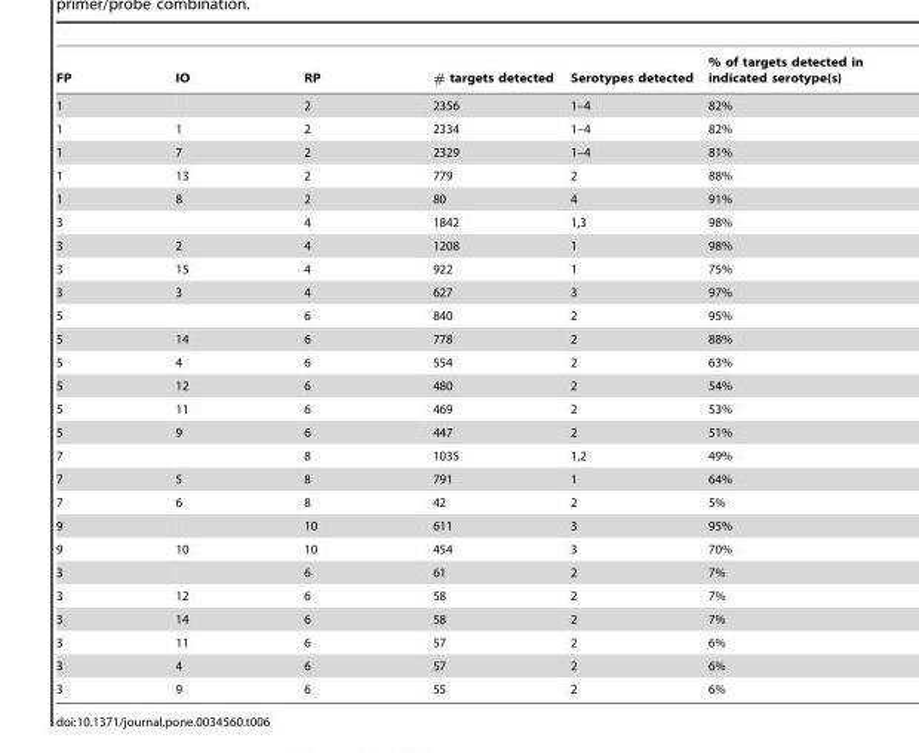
<table><thead><tr><td>FP</td><td>IO</td><td>RP</td><td># targets detected</td><td>Serotypes detected</td><td>% of targets detected in indicated serotype(s)</td></tr></thead><tbody><tr><td>1</td><td></td><td>2</td><td>2356</td><td>1–4</td><td>82%</td></tr><tr><td>1</td><td>1</td><td>2</td><td>2334</td><td>1–4</td><td>82%</td></tr><tr><td>1</td><td>7</td><td>2</td><td>2329</td><td>1–4</td><td>81%</td></tr><tr><td>1</td><td>13</td><td>2</td><td>779</td><td>2</td><td>88%</td></tr><tr><td>1</td><td>8</td><td>2</td><td>80</td><td>4</td><td>91%</td></tr><tr><td>3</td><td></td><td>4</td><td>1842</td><td>1,3</td><td>98%</td></tr><tr><td>3</td><td>2</td><td>4</td><td>1208</td><td>1</td><td>98%</td></tr><tr><td>3</td><td>15</td><td>4</td><td>922</td><td>1</td><td>75%</td></tr><tr><td>3</td><td>3</td><td>4</td><td>627</td><td>3</td><td>97%</td></tr><tr><td>5</td><td></td><td>6</td><td>840</td><td>2</td><td>95%</td></tr><tr><td>5</td><td>14</td><td>6</td><td>778</td><td>2</td><td>88%</td></tr><tr><td>5</td><td>4</td><td>6</td><td>554</td><td>2</td><td>63%</td></tr><tr><td>5</td><td>12</td><td>6</td><td>480</td><td>2</td><td>54%</td></tr><tr><td>5</td><td>11</td><td>6</td><td>469</td><td>2</td><td>53%</td></tr><tr><td>5</td><td>9</td><td>6</td><td>447</td><td>2</td><td>51%</td></tr><tr><td>7</td><td></td><td>8</td><td>1035</td><td>1,2</td><td>49%</td></tr><tr><td>7</td><td>5</td><td>8</td><td>791</td><td>1</td><td>64%</td></tr><tr><td>7</td><td>6</td><td>8</td><td>42</td><td>2</td><td>5%</td></tr><tr><td>9</td><td></td><td>10</td><td>611</td><td>3</td><td>95%</td></tr><tr><td>9</td><td>10</td><td>10</td><td>454</td><td>3</td><td>70%</td></tr><tr><td>3</td><td></td><td>6</td><td>61</td><td>2</td><td>7%</td></tr><tr><td>3</td><td>12</td><td>6</td><td>58</td><td>2</td><td>7%</td></tr><tr><td>3</td><td>14</td><td>6</td><td>58</td><td>2</td><td>7%</td></tr><tr><td>3</td><td>11</td><td>6</td><td>57</td><td>2</td><td>6%</td></tr><tr><td>3</td><td>4</td><td>6</td><td>57</td><td>2</td><td>6%</td></tr><tr><td>3</td><td>9</td><td>6</td><td>55</td><td>2</td><td>6%</td></tr></tbody></table>